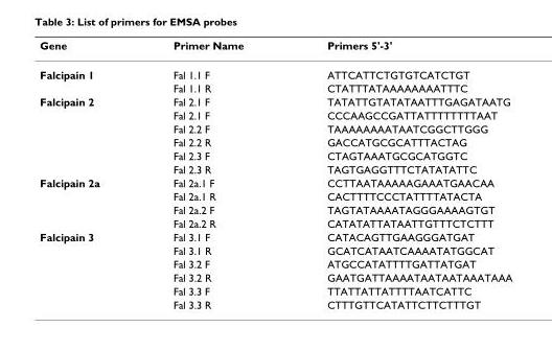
<table><thead><tr><td>Gene</td><td>Primer Name</td><td>Primers 5&#x27;-3&#x27;</td></tr></thead><tbody><tr><td rowspan="2">Falcipain 1</td><td>Fal 1.1 F</td><td>ATTCATTCTGTGTCATCTGT</td></tr><tr><td>Fal 1.1 R</td><td>CTATTTATAAAAAAAATTTC</td></tr><tr><td rowspan="6">Falcipain 2</td><td>Fal 2.1 F</td><td>TATATTGTATATAATTTGAGATAATG</td></tr><tr><td>Fal 2.1 F</td><td>CCCAAGCCGATTATTTTTTTTAAT</td></tr><tr><td>Fal 2.2 F</td><td>TAAAAAAAATAATCGGCTTGGG</td></tr><tr><td>Fal 2.2 R</td><td>GACCATGCGCATTTACTAG</td></tr><tr><td>Fal 2.3 F</td><td>CTAGTAAATGCGCATGGTC</td></tr><tr><td>Fal 2.3 R</td><td>TAGTGAGGTTTCTATATATTC</td></tr><tr><td rowspan="4">Falcipain 2a</td><td>Fal 2a.1 F</td><td>CCTTAATAAAAAGAAATGAACAA</td></tr><tr><td>Fal 2a.1 R</td><td>CACTTTTCCCTATTTTATACTA</td></tr><tr><td>Fal 2a.2 F</td><td>TAGTATAAAATAGGGAAAAGTGT</td></tr><tr><td>Fal 2a.2 R</td><td>CATATATTATAATTGTTTCTCTTT</td></tr><tr><td rowspan="6">Falcipain 3</td><td>Fal 3.1 F</td><td>CATACAGTTGAAGGGATGAT</td></tr><tr><td>Fal 3.1 R</td><td>GCATCATAATCAAAATATGGCAT</td></tr><tr><td>Fal 3.2 F</td><td>ATGCCATATTTTGATTATGAT</td></tr><tr><td>Fal 3.2 R</td><td>GAATGATTAAAATAATAATAAATAAA</td></tr><tr><td>Fal 3.3 F</td><td>TTATTATTATTTTAATCATTC</td></tr><tr><td>Fal 3.3 R</td><td>CTTTGTTCATATTCTTCTTTGT</td></tr></tbody></table>